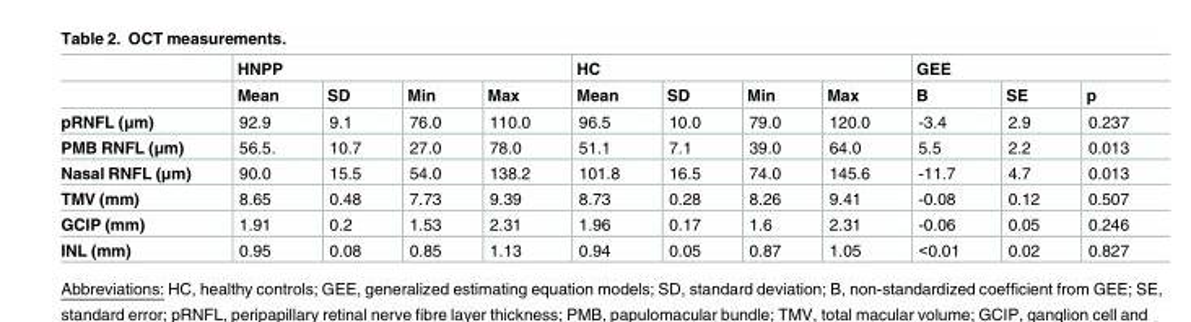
<table><thead><tr><td rowspan="2"></td><td colspan="4">HNPP</td><td colspan="4">HC</td><td colspan="3">GEE</td></tr><tr><td>Mean</td><td>SD</td><td>Min</td><td>Max</td><td>Mean</td><td>SD</td><td>Min</td><td>Max</td><td>B</td><td>SE</td><td>p</td></tr></thead><tbody><tr><td>pRNFL (μm)</td><td>92.9</td><td>9.1</td><td>76.0</td><td>110.0</td><td>96.5</td><td>10.0</td><td>79.0</td><td>120.0</td><td>-3.4</td><td>2.9</td><td>0.237</td></tr><tr><td>PMB RNFL (μm)</td><td>56.5.</td><td>10.7</td><td>27.0</td><td>78.0</td><td>51.1</td><td>7.1</td><td>39.0</td><td>64.0</td><td>5.5</td><td>2.2</td><td>0.013</td></tr><tr><td>Nasal RNFL (μm)</td><td>90.0</td><td>15.5</td><td>54.0</td><td>138.2</td><td>101.8</td><td>16.5</td><td>74.0</td><td>145.6</td><td>-11.7</td><td>4.7</td><td>0.013</td></tr><tr><td>TMV (mm)</td><td>8.65</td><td>0.48</td><td>7.73</td><td>9.39</td><td>8.73</td><td>0.28</td><td>8.26</td><td>9.41</td><td>-0.08</td><td>0.12</td><td>0.507</td></tr><tr><td>GCIP (mm)</td><td>1.91</td><td>0.2</td><td>1.53</td><td>2.31</td><td>1.96</td><td>0.17</td><td>1.6</td><td>2.31</td><td>-0.06</td><td>0.05</td><td>0.246</td></tr><tr><td>INL (mm)</td><td>0.95</td><td>0.08</td><td>0.85</td><td>1.13</td><td>0.94</td><td>0.05</td><td>0.87</td><td>1.05</td><td>&lt;0.01</td><td>0.02</td><td>0.827</td></tr></tbody></table>